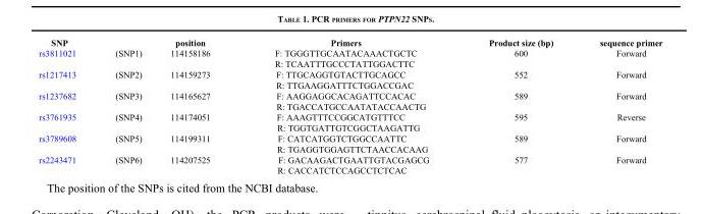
<table><thead><tr><td>SNP</td><td></td><td>position</td><td>Primers</td><td>Product size (bp)</td><td>sequence primer</td></tr></thead><tbody><tr><td rowspan="2">rs3811021</td><td rowspan="2">(SNP1)</td><td rowspan="2">114158186</td><td>F: TGGGTTGCAATACAAACTGCTC</td><td rowspan="2">600</td><td rowspan="2">Forward</td></tr><tr><td>R: TCAATTTGCCCTATTGGACTTC</td></tr><tr><td rowspan="2">rs1217413</td><td rowspan="2">(SNP2)</td><td rowspan="2">114159273</td><td>F: TTGCAGGTGTACTTGCAGCC</td><td rowspan="2">552</td><td rowspan="2">Forward</td></tr><tr><td>R: TTGAAGGATTTCTGGACCGAC</td></tr><tr><td rowspan="2">rs1237682</td><td rowspan="2">(SNP3)</td><td rowspan="2">114165627</td><td>F: AAGGAGGCACAGATTCCACAC</td><td rowspan="2">589</td><td rowspan="2">Forward</td></tr><tr><td>R: TGACCATGCCAATATACCAACTG</td></tr><tr><td rowspan="2">rs3761935</td><td rowspan="2">(SNP4)</td><td rowspan="2">114174051</td><td>F: AAAGTTTCCGGCATGTTTCC</td><td rowspan="2">595</td><td rowspan="2">Reverse</td></tr><tr><td>R: TGGTGATTGTCGGCTAAGATTG</td></tr><tr><td rowspan="2">rs3789608</td><td rowspan="2">(SNP5)</td><td rowspan="2">114199311</td><td>F: CATCATGGTCTGGCCAATTC</td><td rowspan="2">589</td><td rowspan="2">Forward</td></tr><tr><td>R: TGAGGTGGAGTTCTAACCACAAG</td></tr><tr><td rowspan="2">rs2243471</td><td rowspan="2">(SNP6)</td><td rowspan="2">114207525</td><td>F: GACAAGACTGAATTGTACGAGCG</td><td rowspan="2">577</td><td rowspan="2">Forward</td></tr><tr><td>R: CACCATCTCCAGCCTCTCAC</td></tr></tbody></table>